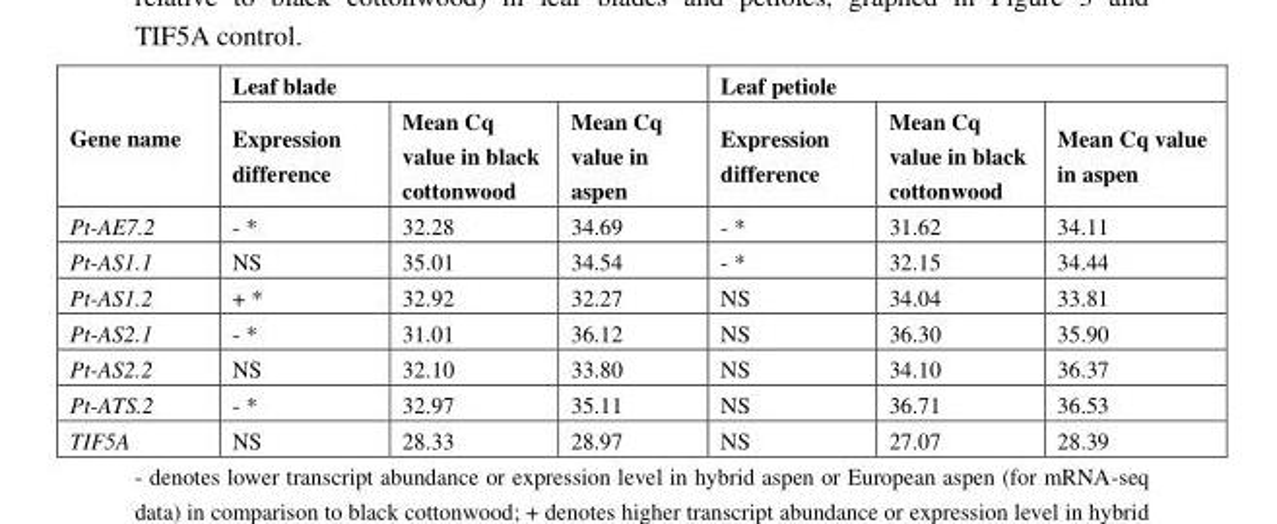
<table><thead><tr><td rowspan="2">Gene name</td><td colspan="3">Leaf blade</td><td colspan="3">Leaf petiole</td></tr><tr><td>Expression difference</td><td>Mean Cq value in black cottonwood</td><td>Mean Cq value in aspen</td><td>Expression difference</td><td>Mean Cq value in black cottonwood</td><td>Mean Cq value in aspen</td></tr></thead><tbody><tr><td>Pt-AE7.2</td><td>- *</td><td>32.28</td><td>34.69</td><td>- *</td><td>31.62</td><td>34.11</td></tr><tr><td>Pt-AS1.1</td><td>NS</td><td>35.01</td><td>34.54</td><td>- *</td><td>32.15</td><td>34.44</td></tr><tr><td>Pt-AS1.2</td><td>+ *</td><td>32.92</td><td>32.27</td><td>NS</td><td>34.04</td><td>33.81</td></tr><tr><td>Pt-AS2.1</td><td>- *</td><td>31.01</td><td>36.12</td><td>NS</td><td>36.30</td><td>35.90</td></tr><tr><td>Pt-AS2.2</td><td>NS</td><td>32.10</td><td>33.80</td><td>NS</td><td>34.10</td><td>36.37</td></tr><tr><td>Pt-ATS.2</td><td>- *</td><td>32.97</td><td>35.11</td><td>NS</td><td>36.71</td><td>36.53</td></tr><tr><td>TIF5A</td><td>NS</td><td>28.33</td><td>28.97</td><td>NS</td><td>27.07</td><td>28.39</td></tr></tbody></table>